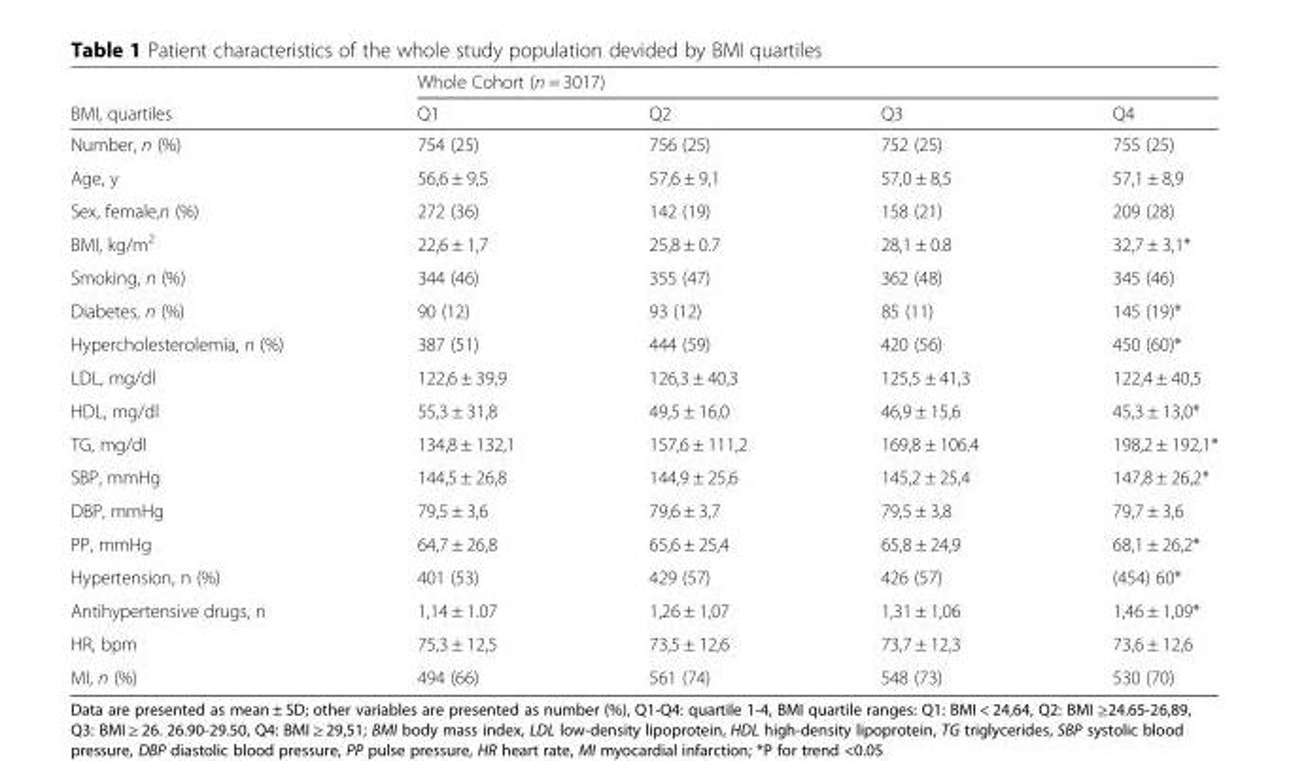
<table><thead><tr><td rowspan="2">BMI, quartiles</td><td colspan="4">Whole Cohort (n = 3017)</td></tr><tr><td>Q1</td><td>Q2</td><td>Q3</td><td>Q4</td></tr></thead><tbody><tr><td>Number, n (%)</td><td>754 (25)</td><td>756 (25)</td><td>752 (25)</td><td>755 (25)</td></tr><tr><td>Age, y</td><td>56,6 ± 9,5</td><td>57,6 ± 9,1</td><td>57,0 ± 8,5</td><td>57,1 ± 8,9</td></tr><tr><td>Sex, female,n (%)</td><td>272 (36)</td><td>142 (19)</td><td>158 (21)</td><td>209 (28)</td></tr><tr><td>BMI, kg/m<sup>2</sup></td><td>22,6 ± 1,7</td><td>25,8 ± 0.7</td><td>28,1 ± 0.8</td><td>32,7 ± 3,1*</td></tr><tr><td>Smoking, n (%)</td><td>344 (46)</td><td>355 (47)</td><td>362 (48)</td><td>345 (46)</td></tr><tr><td>Diabetes, n (%)</td><td>90 (12)</td><td>93 (12)</td><td>85 (11)</td><td>145 (19)*</td></tr><tr><td>Hypercholesterolemia, n (%)</td><td>387 (51)</td><td>444 (59)</td><td>420 (56)</td><td>450 (60)*</td></tr><tr><td>LDL, mg/dl</td><td>122,6 ± 39,9</td><td>126,3 ± 40,3</td><td>125,5 ± 41,3</td><td>122,4 ± 40,5</td></tr><tr><td>HDL, mg/dl</td><td>55,3 ± 31,8</td><td>49,5 ± 16,0</td><td>46,9 ± 15,6</td><td>45,3 ± 13,0*</td></tr><tr><td>TG, mg/dl</td><td>134,8 ± 132,1</td><td>157,6 ± 111,2</td><td>169,8 ± 106.4</td><td>198,2 ± 192,1*</td></tr><tr><td>SBP, mmHg</td><td>144,5 ± 26,8</td><td>144,9 ± 25,6</td><td>145,2 ± 25,4</td><td>147,8 ± 26,2*</td></tr><tr><td>DBP, mmHg</td><td>79,5 ± 3,6</td><td>79,6 ± 3,7</td><td>79,5 ± 3,8</td><td>79,7 ± 3,6</td></tr><tr><td>PP, mmHg</td><td>64,7 ± 26,8</td><td>65,6 ± 25,4</td><td>65,8 ± 24,9</td><td>68,1 ± 26,2*</td></tr><tr><td>Hypertension, n (%)</td><td>401 (53)</td><td>429 (57)</td><td>426 (57)</td><td>(454) 60*</td></tr><tr><td>Antihypertensive drugs, n</td><td>1,14 ± 1.07</td><td>1,26 ± 1,07</td><td>1,31 ± 1,06</td><td>1,46 ± 1,09*</td></tr><tr><td>HR, bpm</td><td>75,3 ± 12,5</td><td>73,5 ± 12,6</td><td>73,7 ± 12,3</td><td>73,6 ± 12,6</td></tr><tr><td>MI, n (%)</td><td>494 (66)</td><td>561 (74)</td><td>548 (73)</td><td>530 (70)</td></tr></tbody></table>